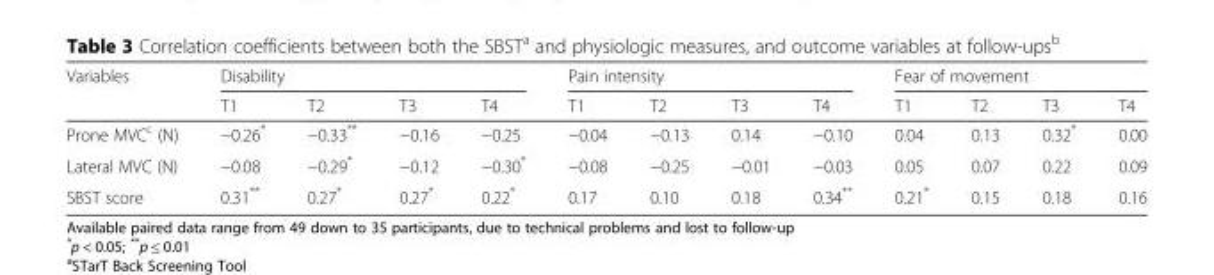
<table><thead><tr><td rowspan="2">Variables</td><td colspan="4">Disability</td><td colspan="4">Pain intensity</td><td colspan="4">Fear of movement</td></tr><tr><td>T1</td><td>T2</td><td>T3</td><td>T4</td><td>T1</td><td>T2</td><td>T3</td><td>T4</td><td>T1</td><td>T2</td><td>T3</td><td>T4</td></tr></thead><tbody><tr><td>Prone MVC<sup>c</sup> (N)</td><td>−0.26*</td><td>−0.33**</td><td>−0.16</td><td>−0.25</td><td>−0.04</td><td>−0.13</td><td>0.14</td><td>−0.10</td><td>0.04</td><td>0.13</td><td>0.32*</td><td>0.00</td></tr><tr><td>Lateral MVC (N)</td><td>−0.08</td><td>−0.29*</td><td>−0.12</td><td>−0.30*</td><td>−0.08</td><td>−0.25</td><td>−0.01</td><td>−0.03</td><td>0.05</td><td>0.07</td><td>0.22</td><td>0.09</td></tr><tr><td>SBST score</td><td>0.31**</td><td>0.27*</td><td>0.27*</td><td>0.22*</td><td>0.17</td><td>0.10</td><td>0.18</td><td>0.34**</td><td>0.21*</td><td>0.15</td><td>0.18</td><td>0.16</td></tr></tbody></table>